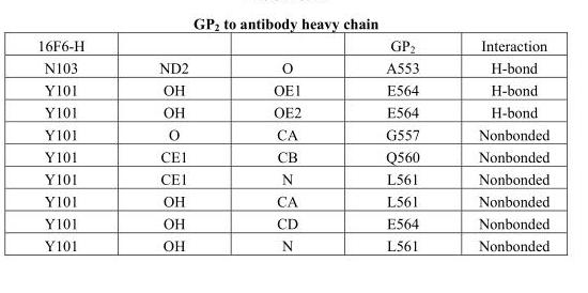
<table><tbody><tr><td>16F6-H</td><td></td><td></td><td>GP<sub>2</sub></td><td>Interaction</td></tr><tr><td>N103</td><td>ND2</td><td>O</td><td>A553</td><td>H-bond</td></tr><tr><td>Y101</td><td>OH</td><td>OE1</td><td>E564</td><td>H-bond</td></tr><tr><td>Y101</td><td>OH</td><td>OE2</td><td>E564</td><td>H-bond</td></tr><tr><td>Y101</td><td>O</td><td>CA</td><td>G557</td><td>Nonbonded</td></tr><tr><td>Y101</td><td>CE1</td><td>CB</td><td>Q560</td><td>Nonbonded</td></tr><tr><td>Y101</td><td>CE1</td><td>N</td><td>L561</td><td>Nonbonded</td></tr><tr><td>Y101</td><td>OH</td><td>CA</td><td>L561</td><td>Nonbonded</td></tr><tr><td>Y101</td><td>OH</td><td>CD</td><td>E564</td><td>Nonbonded</td></tr><tr><td>Y101</td><td>OH</td><td>N</td><td>L561</td><td>Nonbonded</td></tr></tbody></table>